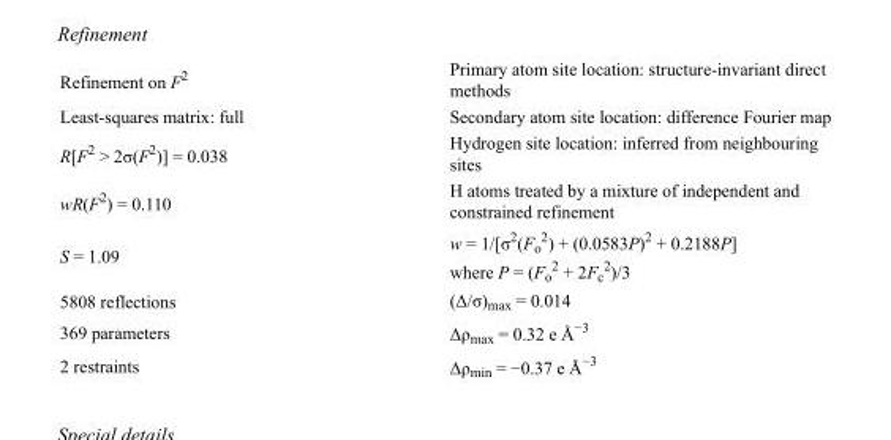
<table><tbody><tr><td>Refinement on F<sup>2</sup></td><td>Primary atom site location: structure-invariant direct methods</td></tr><tr><td>Least-squares matrix: full</td><td>Secondary atom site location: difference Fourier map</td></tr><tr><td>R[F<sup>2</sup> &gt; 2σ(F<sup>2</sup>)] = 0.038</td><td>Hydrogen site location: inferred from neighbouring sites</td></tr><tr><td>wR(F<sup>2</sup>) = 0.110</td><td>H atoms treated by a mixture of independent and constrained refinement</td></tr><tr><td>S = 1.09</td><td>w = 1/[σ<sup>2</sup>(F<sub>o</sub> <sup>2</sup>) + (0.0583P)<sup>2</sup> + 0.2188P] where P = (F<sub>o</sub> <sup>2</sup> + 2F<sub>c</sub> <sup>2</sup>)/3</td></tr><tr><td>5808 reflections</td><td>(Δ/σ)<sub>max</sub> = 0.014</td></tr><tr><td>369 parameters</td><td>Δρ<sub>max</sub> = 0.32 e Å<sup>−3</sup></td></tr><tr><td>2 restraints</td><td>Δρ<sub>min</sub> = −0.37 e Å<sup>−3</sup></td></tr></tbody></table>